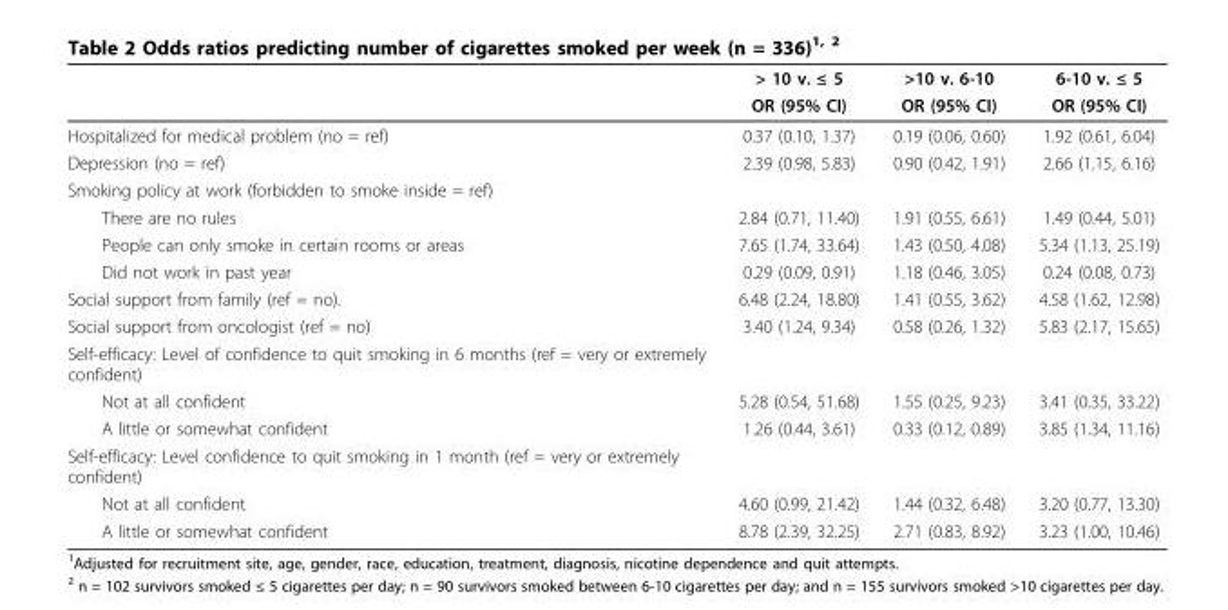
<table><thead><tr><td rowspan="2"></td><td rowspan="2">&gt; 10 v. ≤ 5 OR (95% CI)</td><td rowspan="2">&gt;10 v. 6-10 OR (95% CI)</td><td rowspan="2">6-10 v. ≤ 5 OR (95% CI)</td></tr><tr></tr></thead><tbody><tr><td>Hospitalized for medical problem (no = ref)</td><td>0.37 (0.10, 1.37)</td><td>0.19 (0.06, 0.60)</td><td>1.92 (0.61, 6.04)</td></tr><tr><td>Depression (no = ref)</td><td>2.39 (0.98, 5.83)</td><td>0.90 (0.42, 1.91)</td><td>2.66 (1.15, 6.16)</td></tr><tr><td colspan="4">Smoking policy at work (forbidden to smoke inside = ref)</td></tr><tr><td>There are no rules</td><td>2.84 (0.71, 11.40)</td><td>1.91 (0.55, 6.61)</td><td>1.49 (0.44, 5.01)</td></tr><tr><td>People can only smoke in certain rooms or areas</td><td>7.65 (1.74, 33.64)</td><td>1.43 (0.50, 4.08)</td><td>5.34 (1.13, 25.19)</td></tr><tr><td>Did not work in past year</td><td>0.29 (0.09, 0.91)</td><td>1.18 (0.46, 3.05)</td><td>0.24 (0.08, 0.73)</td></tr><tr><td>Social support from family (ref = no).</td><td>6.48 (2.24, 18.80)</td><td>1.41 (0.55, 3.62)</td><td>4.58 (1.62, 12.98)</td></tr><tr><td>Social support from oncologist (ref = no)</td><td>3.40 (1.24, 9.34)</td><td>0.58 (0.26, 1.32)</td><td>5.83 (2.17, 15.65)</td></tr><tr><td colspan="4">Self-efficacy: Level of confidence to quit smoking in 6 months (ref = very or extremely confident)</td></tr><tr><td>Not at all confident</td><td>5.28 (0.54, 51.68)</td><td>1.55 (0.25, 9.23)</td><td>3.41 (0.35, 33.22)</td></tr><tr><td>A little or somewhat confident</td><td>1.26 (0.44, 3.61)</td><td>0.33 (0.12, 0.89)</td><td>3.85 (1.34, 11.16)</td></tr><tr><td colspan="4">Self-efficacy: Level confidence to quit smoking in 1 month (ref = very or extremely confident)</td></tr><tr><td>Not at all confident</td><td>4.60 (0.99, 21.42)</td><td>1.44 (0.32, 6.48)</td><td>3.20 (0.77, 13.30)</td></tr><tr><td>A little or somewhat confident</td><td>8.78 (2.39, 32.25)</td><td>2.71 (0.83, 8.92)</td><td>3.23 (1.00, 10.46)</td></tr></tbody></table>